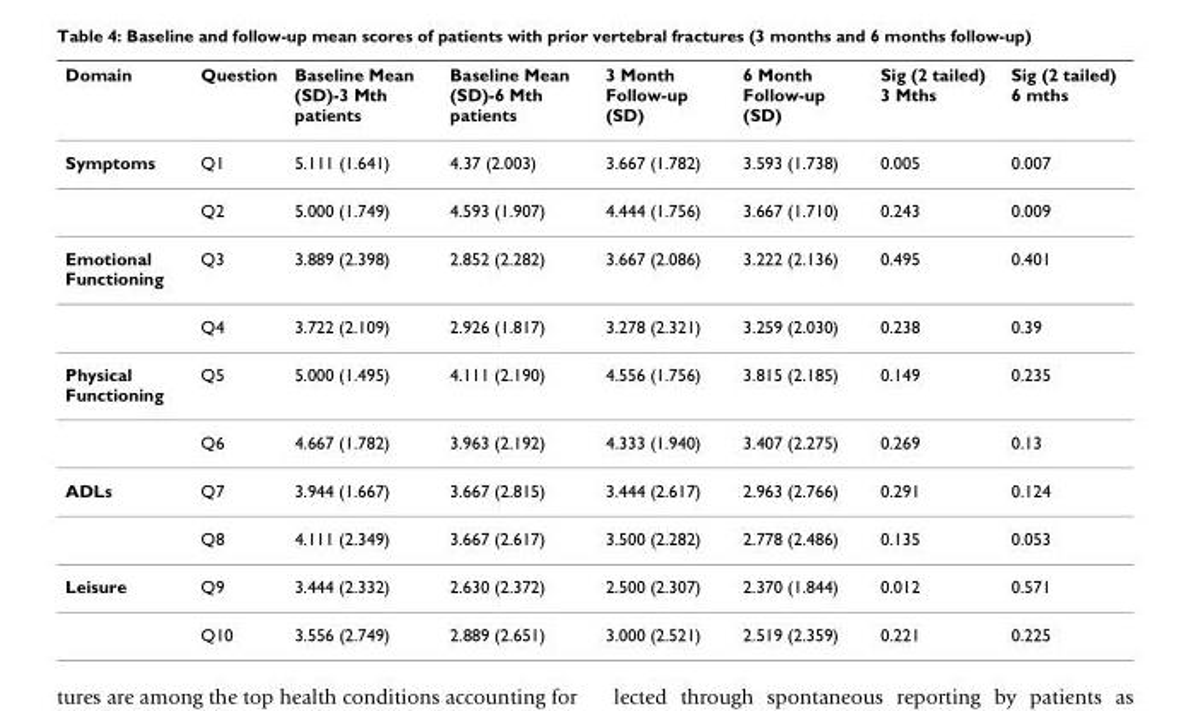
<table><thead><tr><td>Domain</td><td>Question</td><td>Baseline Mean (SD)-3 Mth patients</td><td>Baseline Mean (SD)-6 Mth patients</td><td>3 Month Follow-up (SD)</td><td>6 Month Follow-up (SD)</td><td>Sig (2 tailed) 3 Mths</td><td>Sig (2 tailed) 6 mths</td></tr></thead><tbody><tr><td rowspan="2">Symptoms</td><td>Q1</td><td>5.111 (1.641)</td><td>4.37 (2.003)</td><td>3.667 (1.782)</td><td>3.593 (1.738)</td><td>0.005</td><td>0.007</td></tr><tr><td>Q2</td><td>5.000 (1.749)</td><td>4.593 (1.907)</td><td>4.444 (1.756)</td><td>3.667 (1.710)</td><td>0.243</td><td>0.009</td></tr><tr><td rowspan="2">Emotional Functioning</td><td>Q3</td><td>3.889 (2.398)</td><td>2.852 (2.282)</td><td>3.667 (2.086)</td><td>3.222 (2.136)</td><td>0.495</td><td>0.401</td></tr><tr><td>Q4</td><td>3.722 (2.109)</td><td>2.926 (1.817)</td><td>3.278 (2.321)</td><td>3.259 (2.030)</td><td>0.238</td><td>0.39</td></tr><tr><td rowspan="2">Physical Functioning</td><td>Q5</td><td>5.000 (1.495)</td><td>4.111 (2.190)</td><td>4.556 (1.756)</td><td>3.815 (2.185)</td><td>0.149</td><td>0.235</td></tr><tr><td>Q6</td><td>4.667 (1.782)</td><td>3.963 (2.192)</td><td>4.333 (1.940)</td><td>3.407 (2.275)</td><td>0.269</td><td>0.13</td></tr><tr><td rowspan="2">ADLs</td><td>Q7</td><td>3.944 (1.667)</td><td>3.667 (2.815)</td><td>3.444 (2.617)</td><td>2.963 (2.766)</td><td>0.291</td><td>0.124</td></tr><tr><td>Q8</td><td>4.111 (2.349)</td><td>3.667 (2.617)</td><td>3.500 (2.282)</td><td>2.778 (2.486)</td><td>0.135</td><td>0.053</td></tr><tr><td rowspan="2">Leisure</td><td>Q9</td><td>3.444 (2.332)</td><td>2.630 (2.372)</td><td>2.500 (2.307)</td><td>2.370 (1.844)</td><td>0.012</td><td>0.571</td></tr><tr><td>Q10</td><td>3.556 (2.749)</td><td>2.889 (2.651)</td><td>3.000 (2.521)</td><td>2.519 (2.359)</td><td>0.221</td><td>0.225</td></tr></tbody></table>